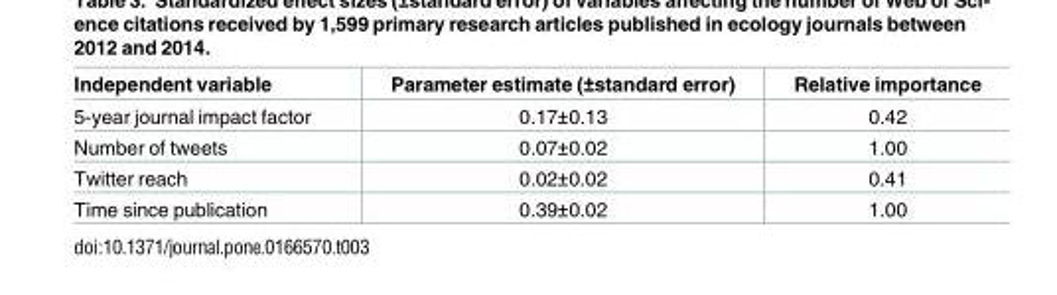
<table><thead><tr><td>Independent variable</td><td>Parameter estimate (±standard error)</td><td>Relative importance</td></tr></thead><tbody><tr><td>5-year journal impact factor</td><td>0.17±0.13</td><td>0.42</td></tr><tr><td>Number of tweets</td><td>0.07±0.02</td><td>1.00</td></tr><tr><td>Twitter reach</td><td>0.02±0.02</td><td>0.41</td></tr><tr><td>Time since publication</td><td>0.39±0.02</td><td>1.00</td></tr></tbody></table>